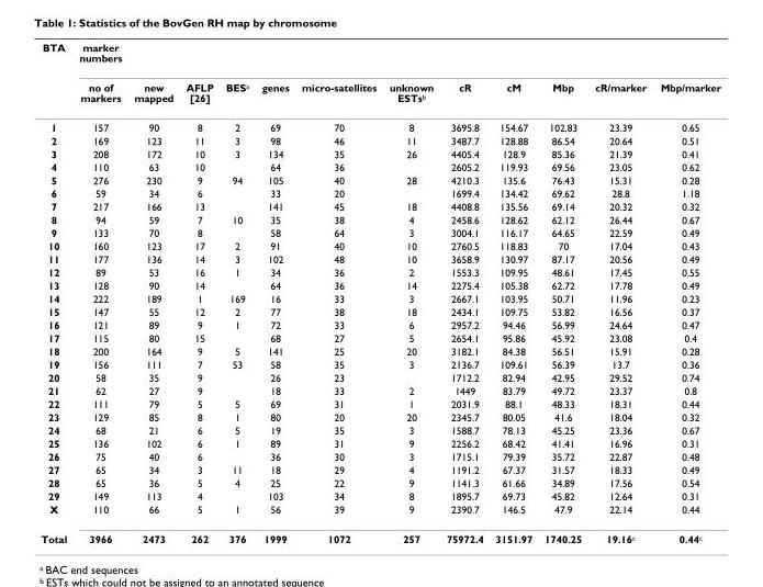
<table><thead><tr><td rowspan="2">BTA</td><td rowspan="2">marker numbers no of markers</td><td rowspan="2">new mapped</td><td rowspan="2">AFLP [26]</td><td rowspan="2">BESa</td><td rowspan="2">genes</td><td rowspan="2">micro-satellites</td><td rowspan="2">unknown ESTsb</td><td rowspan="2">cR</td><td rowspan="2">cM</td><td rowspan="2">Mbp</td><td rowspan="2">cR/marker</td><td rowspan="2">Mbp/marker</td></tr><tr></tr></thead><tbody><tr><td>1</td><td>157</td><td>90</td><td>8</td><td>2</td><td>69</td><td>70</td><td>8</td><td>3695.8</td><td>154.67</td><td>102.83</td><td>23.39</td><td>0.65</td></tr><tr><td>2</td><td>169</td><td>123</td><td>11</td><td>3</td><td>98</td><td>46</td><td>11</td><td>3487.7</td><td>128.88</td><td>86.54</td><td>20.64</td><td>0.51</td></tr><tr><td>3</td><td>208</td><td>172</td><td>10</td><td>3</td><td>134</td><td>35</td><td>26</td><td>4405.4</td><td>128.9</td><td>85.36</td><td>21.39</td><td>0.41</td></tr><tr><td>4</td><td>110</td><td>63</td><td>10</td><td></td><td>64</td><td>36</td><td></td><td>2605.2</td><td>119.93</td><td>69.56</td><td>23.05</td><td>0.62</td></tr><tr><td>5</td><td>276</td><td>230</td><td>9</td><td>94</td><td>105</td><td>40</td><td>28</td><td>4210.3</td><td>135.6</td><td>76.43</td><td>15.31</td><td>0.28</td></tr><tr><td>6</td><td>59</td><td>34</td><td>6</td><td></td><td>33</td><td>20</td><td></td><td>1699.4</td><td>134.42</td><td>69.62</td><td>28.8</td><td>1.18</td></tr><tr><td>7</td><td>217</td><td>166</td><td>13</td><td></td><td>141</td><td>45</td><td>18</td><td>4408.8</td><td>135.56</td><td>69.14</td><td>20.32</td><td>0.32</td></tr><tr><td>8</td><td>94</td><td>59</td><td>7</td><td>10</td><td>35</td><td>38</td><td>4</td><td>2458.6</td><td>128.62</td><td>62.12</td><td>26.44</td><td>0.67</td></tr><tr><td>9</td><td>133</td><td>70</td><td>8</td><td></td><td>58</td><td>64</td><td>3</td><td>3004.1</td><td>116.17</td><td>64.65</td><td>22.59</td><td>0.49</td></tr><tr><td>10</td><td>160</td><td>123</td><td>17</td><td>2</td><td>91</td><td>40</td><td>10</td><td>2760.5</td><td>118.83</td><td>70</td><td>17.04</td><td>0.43</td></tr><tr><td>11</td><td>177</td><td>136</td><td>14</td><td>3</td><td>102</td><td>48</td><td>10</td><td>3658.9</td><td>130.97</td><td>87.17</td><td>20.56</td><td>0.49</td></tr><tr><td>12</td><td>89</td><td>53</td><td>16</td><td>1</td><td>34</td><td>36</td><td>2</td><td>1553.3</td><td>109.95</td><td>48.61</td><td>17.45</td><td>0.55</td></tr><tr><td>13</td><td>128</td><td>90</td><td>14</td><td></td><td>64</td><td>36</td><td>14</td><td>2275.4</td><td>105.38</td><td>62.72</td><td>17.78</td><td>0.49</td></tr><tr><td>14</td><td>222</td><td>189</td><td>1</td><td>169</td><td>16</td><td>33</td><td>3</td><td>2667.1</td><td>103.95</td><td>50.71</td><td>11.96</td><td>0.23</td></tr><tr><td>15</td><td>147</td><td>55</td><td>12</td><td>2</td><td>77</td><td>38</td><td>18</td><td>2434.1</td><td>109.75</td><td>53.82</td><td>16.56</td><td>0.37</td></tr><tr><td>16</td><td>121</td><td>89</td><td>9</td><td>1</td><td>72</td><td>33</td><td>6</td><td>2957.2</td><td>94.46</td><td>56.99</td><td>24.64</td><td>0.47</td></tr><tr><td>17</td><td>115</td><td>80</td><td>15</td><td></td><td>68</td><td>27</td><td>5</td><td>2654.1</td><td>95.86</td><td>45.92</td><td>23.08</td><td>0.4</td></tr><tr><td>18</td><td>200</td><td>164</td><td>9</td><td>5</td><td>141</td><td>25</td><td>20</td><td>3182.1</td><td>84.38</td><td>56.51</td><td>15.91</td><td>0.28</td></tr><tr><td>19</td><td>156</td><td>111</td><td>7</td><td>53</td><td>58</td><td>35</td><td>3</td><td>2136.7</td><td>109.61</td><td>56.39</td><td>13.7</td><td>0.36</td></tr><tr><td>20</td><td>58</td><td>35</td><td>9</td><td></td><td>26</td><td>23</td><td></td><td>1712.2</td><td>82.94</td><td>42.95</td><td>29.52</td><td>0.74</td></tr><tr><td>21</td><td>62</td><td>27</td><td>9</td><td></td><td>18</td><td>33</td><td>2</td><td>1449</td><td>83.79</td><td>49.72</td><td>23.37</td><td>0.8</td></tr><tr><td>22</td><td>111</td><td>79</td><td>5</td><td>5</td><td>69</td><td>31</td><td>1</td><td>2031.9</td><td>88.1</td><td>48.33</td><td>18.31</td><td>0.44</td></tr><tr><td>23</td><td>129</td><td>85</td><td>8</td><td>1</td><td>80</td><td>20</td><td>20</td><td>2345.7</td><td>80.05</td><td>41.6</td><td>18.04</td><td>0.32</td></tr><tr><td>24</td><td>68</td><td>21</td><td>6</td><td>5</td><td>19</td><td>35</td><td>3</td><td>1588.7</td><td>78.13</td><td>45.25</td><td>23.36</td><td>0.67</td></tr><tr><td>25</td><td>136</td><td>102</td><td>6</td><td>1</td><td>89</td><td>31</td><td>9</td><td>2256.2</td><td>68.42</td><td>41.41</td><td>16.96</td><td>0.31</td></tr><tr><td>26</td><td>75</td><td>40</td><td>6</td><td></td><td>36</td><td>30</td><td>3</td><td>1715.1</td><td>79.39</td><td>35.72</td><td>22.87</td><td>0.48</td></tr><tr><td>27</td><td>65</td><td>34</td><td>3</td><td>11</td><td>18</td><td>29</td><td>4</td><td>1191.2</td><td>67.37</td><td>31.57</td><td>18.33</td><td>0.49</td></tr><tr><td>28</td><td>65</td><td>36</td><td>5</td><td>4</td><td>25</td><td>22</td><td>9</td><td>1141.3</td><td>61.66</td><td>34.89</td><td>17.56</td><td>0.54</td></tr><tr><td>29</td><td>149</td><td>113</td><td>4</td><td></td><td>103</td><td>34</td><td>8</td><td>1895.7</td><td>69.73</td><td>45.82</td><td>12.64</td><td>0.31</td></tr><tr><td>X</td><td>110</td><td>66</td><td>5</td><td>1</td><td>56</td><td>39</td><td>9</td><td>2390.7</td><td>146.5</td><td>47.9</td><td>22.14</td><td>0.44</td></tr><tr><td>Total</td><td>3966</td><td>2473</td><td>262</td><td>376</td><td>1999</td><td>1072</td><td>257</td><td>75972.4</td><td>3151.97</td><td>1740.25</td><td>19.16c</td><td>0.44c</td></tr></tbody></table>